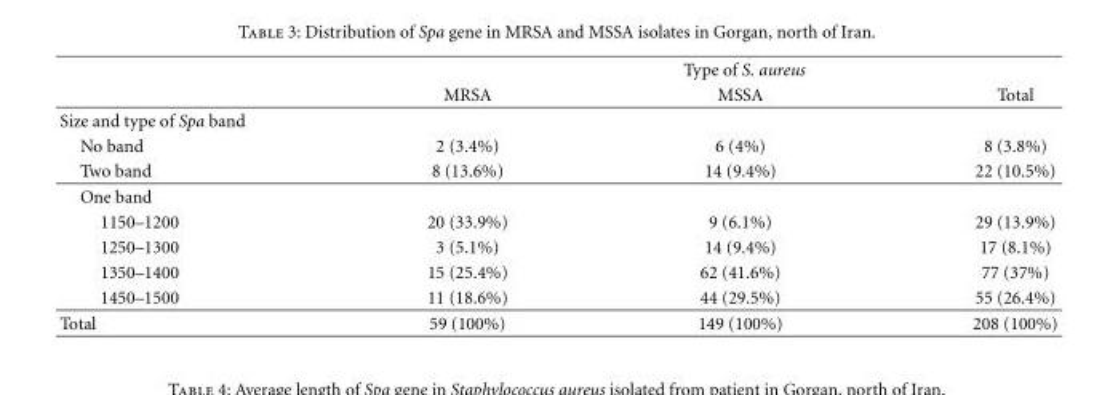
<table><thead><tr><td rowspan="2"></td><td colspan="3">Type of S. aureus</td></tr><tr><td>MRSA</td><td>MSSA</td><td>Total</td></tr></thead><tbody><tr><td colspan="4">Size and type of Spa band</td></tr><tr><td>No band</td><td>2 (3.4%)</td><td>6 (4%)</td><td>8 (3.8%)</td></tr><tr><td>Two band</td><td>8 (13.6%)</td><td>14 (9.4%)</td><td>22 (10.5%)</td></tr><tr><td colspan="4">One band</td></tr><tr><td>1150–1200</td><td>20 (33.9%)</td><td>9 (6.1%)</td><td>29 (13.9%)</td></tr><tr><td>1250–1300</td><td>3 (5.1%)</td><td>14 (9.4%)</td><td>17 (8.1%)</td></tr><tr><td>1350–1400</td><td>15 (25.4%)</td><td>62 (41.6%)</td><td>77 (37%)</td></tr><tr><td>1450–1500</td><td>11 (18.6%)</td><td>44 (29.5%)</td><td>55 (26.4%)</td></tr><tr><td>Total</td><td>59 (100%)</td><td>149 (100%)</td><td>208 (100%)</td></tr></tbody></table>